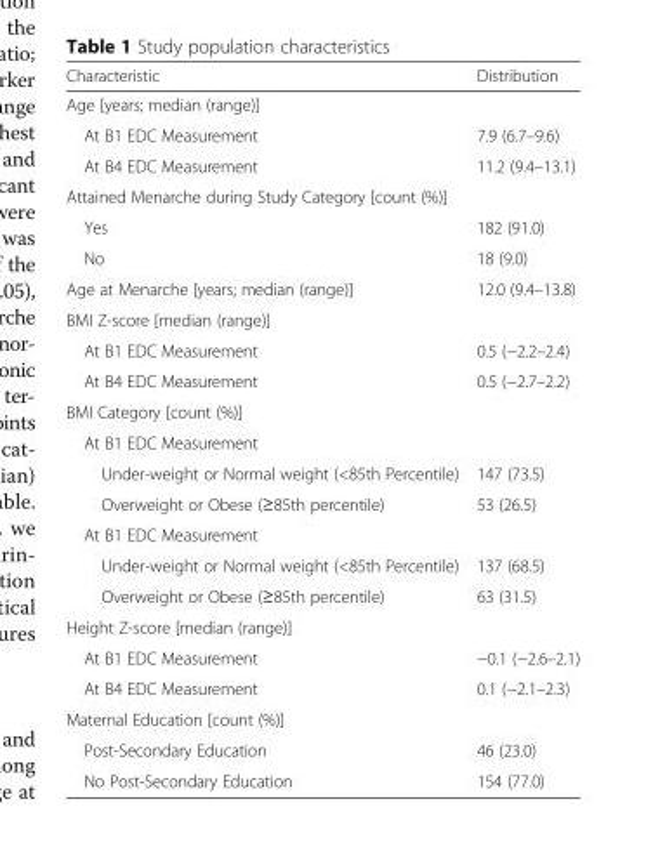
<table><thead><tr><td>Characteristic</td><td>Distribution</td></tr></thead><tbody><tr><td colspan="2">Age [years; median (range)]</td></tr><tr><td>At B1 EDC Measurement</td><td>7.9 (6.7–9.6)</td></tr><tr><td>At B4 EDC Measurement</td><td>11.2 (9.4–13.1)</td></tr><tr><td colspan="2">Attained Menarche during Study Category [count (%)]</td></tr><tr><td>Yes</td><td>182 (91.0)</td></tr><tr><td>No</td><td>18 (9.0)</td></tr><tr><td>Age at Menarche [years; median (range)]</td><td>12.0 (9.4–13.8)</td></tr><tr><td colspan="2">BMI Z-score [median (range)]</td></tr><tr><td>At B1 EDC Measurement</td><td>0.5 (−2.2–2.4)</td></tr><tr><td>At B4 EDC Measurement</td><td>0.5 (−2.7–2.2)</td></tr><tr><td colspan="2">BMI Category [count (%)]</td></tr><tr><td colspan="2">At B1 EDC Measurement</td></tr><tr><td>Under-weight or Normal weight (&lt;85th Percentile)</td><td>147 (73.5)</td></tr><tr><td>Overweight or Obese (≥85th percentile)</td><td>53 (26.5)</td></tr><tr><td colspan="2">At B1 EDC Measurement</td></tr><tr><td>Under-weight or Normal weight (&lt;85th Percentile)</td><td>137 (68.5)</td></tr><tr><td>Overweight or Obese (≥85th percentile)</td><td>63 (31.5)</td></tr><tr><td colspan="2">Height Z-score [median (range)]</td></tr><tr><td>At B1 EDC Measurement</td><td>−0.1 (−2.6–2.1)</td></tr><tr><td>At B4 EDC Measurement</td><td>0.1 (−2.1–2.3)</td></tr><tr><td colspan="2">Maternal Education [count (%)]</td></tr><tr><td>Post-Secondary Education</td><td>46 (23.0)</td></tr><tr><td>No Post-Secondary Education</td><td>154 (77.0)</td></tr></tbody></table>